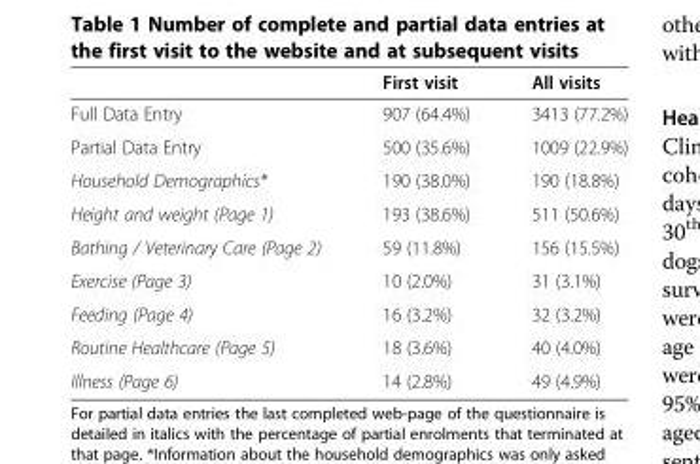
<table><thead><tr><td></td><td>First visit</td><td>All visits</td></tr></thead><tbody><tr><td>Full Data Entry</td><td>907 (64.4%)</td><td>3413 (77.2%)</td></tr><tr><td>Partial Data Entry</td><td>500 (35.6%)</td><td>1009 (22.9%)</td></tr><tr><td>Household Demographics*</td><td>190 (38.0%)</td><td>190 (18.8%)</td></tr><tr><td>Height and weight (Page 1)</td><td>193 (38.6%)</td><td>511 (50.6%)</td></tr><tr><td>Bathing / Veterinary Care (Page 2)</td><td>59 (11.8%)</td><td>156 (15.5%)</td></tr><tr><td>Exercise (Page 3)</td><td>10 (2.0%)</td><td>31 (3.1%)</td></tr><tr><td>Feeding (Page 4)</td><td>16 (3.2%)</td><td>32 (3.2%)</td></tr><tr><td>Routine Healthcare (Page 5)</td><td>18 (3.6%)</td><td>40 (4.0%)</td></tr><tr><td>Illness (Page 6)</td><td>14 (2.8%)</td><td>49 (4.9%)</td></tr></tbody></table>